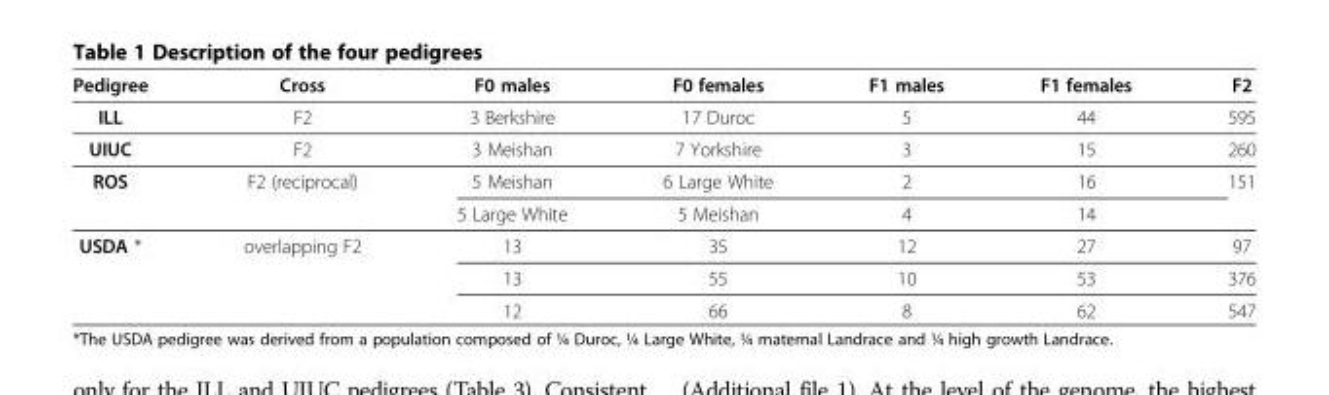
<table><thead><tr><td>Pedigree</td><td>Cross</td><td>F0 males</td><td>F0 females</td><td>F1 males</td><td>F1 females</td><td>F2</td></tr></thead><tbody><tr><td>ILL</td><td>F2</td><td>3 Berkshire</td><td>17 Duroc</td><td>5</td><td>44</td><td>595</td></tr><tr><td>UIUC</td><td>F2</td><td>3 Meishan</td><td>7 Yorkshire</td><td>3</td><td>15</td><td>260</td></tr><tr><td rowspan="2">ROS</td><td>F2 (reciprocal)</td><td>5 Meishan</td><td>6 Large White</td><td>2</td><td>16</td><td rowspan="2">151</td></tr><tr><td></td><td>5 Large White</td><td>5 Meishan</td><td>4</td><td>14</td></tr><tr><td rowspan="3">USDA *</td><td>overlapping F2</td><td>13</td><td>35</td><td>12</td><td>27</td><td>97</td></tr><tr><td></td><td>13</td><td>55</td><td>10</td><td>53</td><td>376</td></tr><tr><td></td><td>12</td><td>66</td><td>8</td><td>62</td><td>547</td></tr></tbody></table>